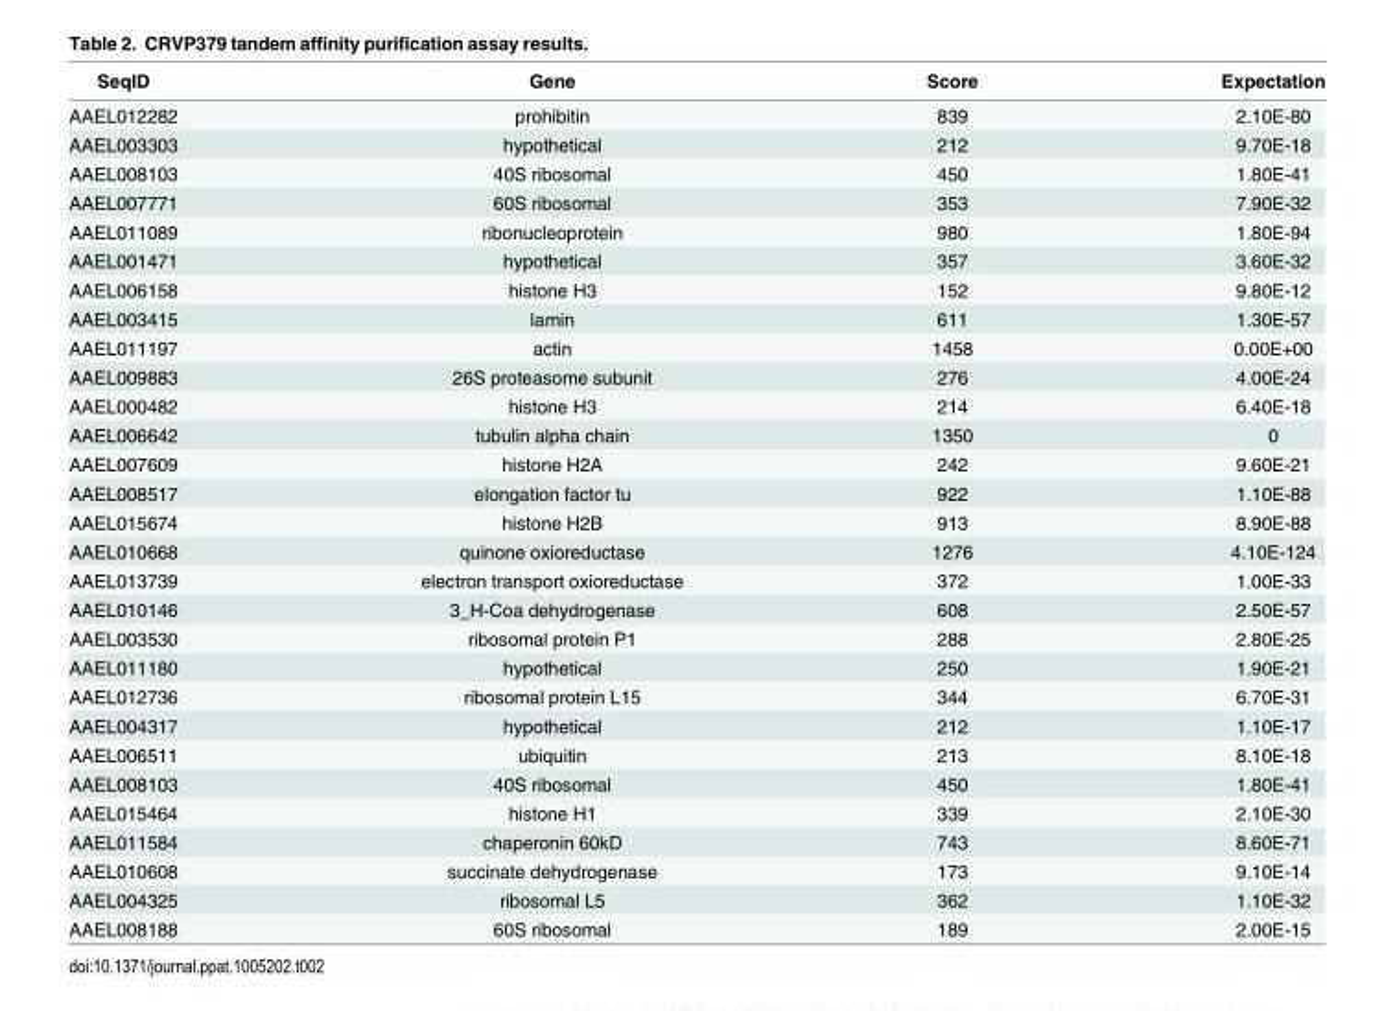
<table><thead><tr><td>SeqID</td><td>Gene</td><td>Score</td><td>Expectation</td></tr></thead><tbody><tr><td>AAEL012282</td><td>prohibitin</td><td>839</td><td>2.10E-80</td></tr><tr><td>AAEL003303</td><td>hypothetical</td><td>212</td><td>9.70E-18</td></tr><tr><td>AAEL008103</td><td>40S ribosomal</td><td>450</td><td>1.80E-41</td></tr><tr><td>AAEL007771</td><td>60S ribosomal</td><td>353</td><td>7.90E-32</td></tr><tr><td>AAEL011089</td><td>ribonucleoprotein</td><td>980</td><td>1.80E-94</td></tr><tr><td>AAEL001471</td><td>hypothetical</td><td>357</td><td>3.60E-32</td></tr><tr><td>AAEL006158</td><td>histone H3</td><td>152</td><td>9.80E-12</td></tr><tr><td>AAEL003415</td><td>lamin</td><td>611</td><td>1.30E-57</td></tr><tr><td>AAEL011197</td><td>actin</td><td>1458</td><td>0.00E+00</td></tr><tr><td>AAEL009883</td><td>26S proteasome subunit</td><td>276</td><td>4.00E-24</td></tr><tr><td>AAEL000482</td><td>histone H3</td><td>214</td><td>6.40E-18</td></tr><tr><td>AAEL006642</td><td>tubulin alpha chain</td><td>1350</td><td>0</td></tr><tr><td>AAEL007609</td><td>histone H2A</td><td>242</td><td>9.60E-21</td></tr><tr><td>AAEL008517</td><td>elongation factor tu</td><td>922</td><td>1.10E-88</td></tr><tr><td>AAEL015674</td><td>histone H2B</td><td>913</td><td>8.90E-88</td></tr><tr><td>AAEL010668</td><td>quinone oxioreductase</td><td>1276</td><td>4.10E-124</td></tr><tr><td>AAEL013739</td><td>electron transport oxioreductase</td><td>372</td><td>1.00E-33</td></tr><tr><td>AAEL010146</td><td>3_H-Coa dehydrogenase</td><td>608</td><td>2.50E-57</td></tr><tr><td>AAEL003530</td><td>ribosomal protein P1</td><td>288</td><td>2.80E-25</td></tr><tr><td>AAEL011180</td><td>hypothetical</td><td>250</td><td>1.90E-21</td></tr><tr><td>AAEL012736</td><td>ribosomal protein L15</td><td>344</td><td>6.70E-31</td></tr><tr><td>AAEL004317</td><td>hypothetical</td><td>212</td><td>1.10E-17</td></tr><tr><td>AAEL006511</td><td>ubiquitin</td><td>213</td><td>8.10E-18</td></tr><tr><td>AAEL008103</td><td>40S ribosomal</td><td>450</td><td>1.80E-41</td></tr><tr><td>AAEL015464</td><td>histone H1</td><td>339</td><td>2.10E-30</td></tr><tr><td>AAEL011584</td><td>chaperonin 60kD</td><td>743</td><td>8.60E-71</td></tr><tr><td>AAEL010608</td><td>succinate dehydrogenase</td><td>173</td><td>9.10E-14</td></tr><tr><td>AAEL004325</td><td>ribosomal L5</td><td>362</td><td>1.10E-32</td></tr><tr><td>AAEL008188</td><td>60S ribosomal</td><td>189</td><td>2.00E-15</td></tr></tbody></table>